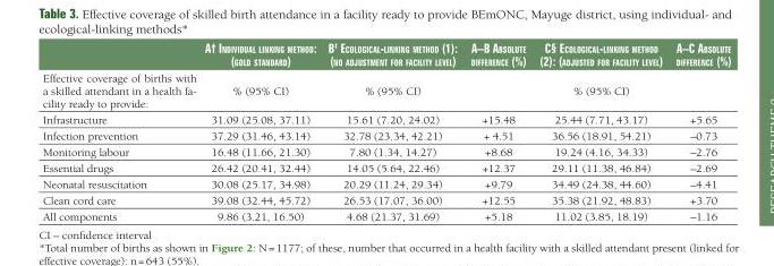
<table><thead><tr><td></td><td>a† iNDiviDual liNkiNg methoD: (golD staNDarD)</td><td>B<sup>‡</sup> ecological-liNkiNg methoD (1): (No aDjustmeNt for facility level)</td><td>a–B aBsolute DiffereNce (%)</td><td>c§ ecological-liNkiNg methoD (2): (aDjusteD for facility level)</td><td>a–c aBsolute DiffereNce (%)</td></tr></thead><tbody><tr><td>Effective coverage of births with a skilled attendant in a health fa- cility ready to provide:</td><td>% (95% CI)</td><td>% (95% CI)</td><td></td><td>% (95% CI)</td><td></td></tr><tr><td>Infrastructure</td><td>31.09 (25.08, 37.11)</td><td>15.61 (7.20, 24.02)</td><td>+15.48</td><td>25.44 (7.71, 43.17)</td><td>+5.65</td></tr><tr><td>Infection prevention</td><td>37.29 (31.46, 43.14)</td><td>32.78 (23.34, 42.21)</td><td>+ 4.51</td><td>36.56 (18.91, 54.21)</td><td>–0.73</td></tr><tr><td>Monitoring labour</td><td>16.48 (11.66, 21.30)</td><td>7.80 (1.34, 14.27)</td><td>+8.68</td><td>19.24 (4.16, 34.33)</td><td>–2.76</td></tr><tr><td>Essential drugs</td><td>26.42 (20.41, 32.44)</td><td>14.05 (5.64, 22.46)</td><td>+12.37</td><td>29.11 (11.38, 46.84)</td><td>–2.69</td></tr><tr><td>Neonatal resuscitation</td><td>30.08 (25.17, 34.98)</td><td>20.29 (11.24, 29.34)</td><td>+9.79</td><td>34.49 (24.38, 44.60)</td><td>–4.41</td></tr><tr><td>Clean cord care</td><td>39.08 (32.44, 45.72)</td><td>26.53 (17.07, 36.00)</td><td>+12.55</td><td>35.38 (21.92, 48.83)</td><td>+3.70</td></tr><tr><td>All components</td><td>9.86 (3.21, 16.50)</td><td>4.68 (21.37, 31.69)</td><td>+5.18</td><td>11.02 (3.85, 18.19)</td><td>–1.16</td></tr></tbody></table>